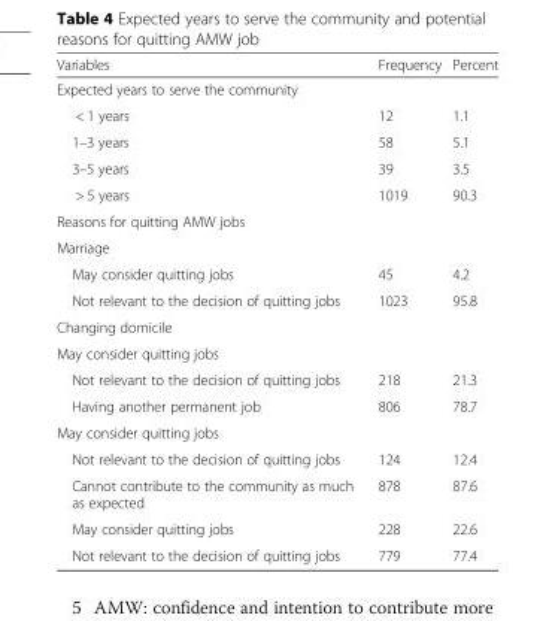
<table><thead><tr><td>Variables</td><td>Frequency</td><td>Percent</td></tr></thead><tbody><tr><td colspan="3">Expected years to serve the community</td></tr><tr><td>&lt; 1 years</td><td>12</td><td>1.1</td></tr><tr><td>1–3 years</td><td>58</td><td>5.1</td></tr><tr><td>3–5 years</td><td>39</td><td>3.5</td></tr><tr><td>&gt; 5 years</td><td>1019</td><td>90.3</td></tr><tr><td colspan="3">Reasons for quitting AMW jobs</td></tr><tr><td colspan="3">Marriage</td></tr><tr><td>May consider quitting jobs</td><td>45</td><td>4.2</td></tr><tr><td>Not relevant to the decision of quitting jobs</td><td>1023</td><td>95.8</td></tr><tr><td colspan="3">Changing domicile</td></tr><tr><td colspan="3">May consider quitting jobs</td></tr><tr><td>Not relevant to the decision of quitting jobs</td><td>218</td><td>21.3</td></tr><tr><td>Having another permanent job</td><td>806</td><td>78.7</td></tr><tr><td colspan="3">May consider quitting jobs</td></tr><tr><td>Not relevant to the decision of quitting jobs</td><td>124</td><td>12.4</td></tr><tr><td>Cannot contribute to the community as much as expected</td><td>878</td><td>87.6</td></tr><tr><td>May consider quitting jobs</td><td>228</td><td>22.6</td></tr><tr><td>Not relevant to the decision of quitting jobs</td><td>779</td><td>77.4</td></tr></tbody></table>